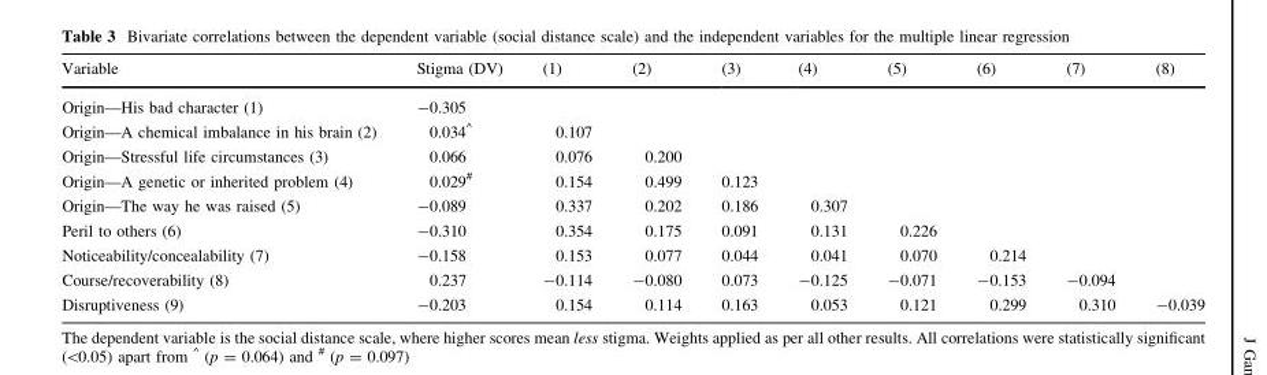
<table><thead><tr><td>Variable</td><td>Stigma (DV)</td><td>(1)</td><td>(2)</td><td>(3)</td><td>(4)</td><td>(5)</td><td>(6)</td><td>(7)</td><td>(8)</td></tr></thead><tbody><tr><td>Origin—His bad character (1)</td><td>-0.305</td><td></td><td></td><td></td><td></td><td></td><td></td><td></td><td></td></tr><tr><td>Origin—A chemical imbalance in his brain (2)</td><td>0.034<sup>^</sup></td><td>0.107</td><td></td><td></td><td></td><td></td><td></td><td></td><td></td></tr><tr><td>Origin—Stressful life circumstances (3)</td><td>0.066</td><td>0.076</td><td>0.200</td><td></td><td></td><td></td><td></td><td></td><td></td></tr><tr><td>Origin—A genetic or inherited problem (4)</td><td>0.029<sup>#</sup></td><td>0.154</td><td>0.499</td><td>0.123</td><td></td><td></td><td></td><td></td><td></td></tr><tr><td>Origin—The way he was raised (5)</td><td>-0.089</td><td>0.337</td><td>0.202</td><td>0.186</td><td>0.307</td><td></td><td></td><td></td><td></td></tr><tr><td>Peril to others (6)</td><td>-0.310</td><td>0.354</td><td>0.175</td><td>0.091</td><td>0.131</td><td>0.226</td><td></td><td></td><td></td></tr><tr><td>Noticeability/concealability (7)</td><td>-0.158</td><td>0.153</td><td>0.077</td><td>0.044</td><td>0.041</td><td>0.070</td><td>0.214</td><td></td><td></td></tr><tr><td>Course/recoverability (8)</td><td>0.237</td><td>-0.114</td><td>-0.080</td><td>0.073</td><td>-0.125</td><td>-0.071</td><td>-0.153</td><td>-0.094</td><td></td></tr><tr><td>Disruptiveness (9)</td><td>-0.203</td><td>0.154</td><td>0.114</td><td>0.163</td><td>0.053</td><td>0.121</td><td>0.299</td><td>0.310</td><td>-0.039</td></tr></tbody></table>